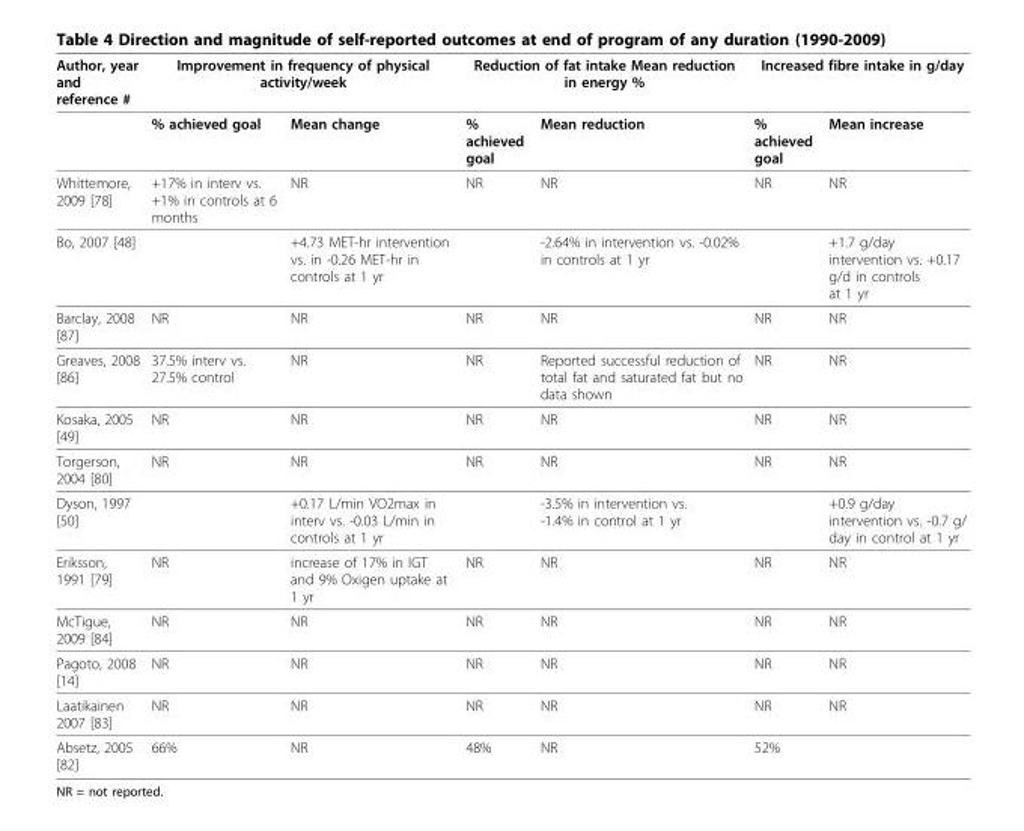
<table><thead><tr><td rowspan="2">Author, year and reference #</td><td colspan="2">Improvement in frequency of physical activity/week</td><td colspan="2">Reduction of fat intake Mean reduction in energy %</td><td colspan="2">Increased fibre intake in g/day</td></tr><tr><td>% achieved goal</td><td>Mean change</td><td>% achieved goal</td><td>Mean reduction</td><td>% achieved goal</td><td>Mean increase</td></tr></thead><tbody><tr><td>Whittemore, 2009 [78]</td><td>+17% in interv vs. +1% in controls at 6 months</td><td>NR</td><td>NR</td><td>NR</td><td>NR</td><td>NR</td></tr><tr><td>Bo, 2007 [48]</td><td></td><td>+4.73 MET-hr intervention vs. in -0.26 MET-hr in controls at 1 yr</td><td></td><td>-2.64% in intervention vs. -0.02% in controls at 1 yr</td><td></td><td>+1.7 g/day intervention vs. +0.17 g/d in controls at 1 yr</td></tr><tr><td>Barclay, 2008 [87]</td><td>NR</td><td>NR</td><td>NR</td><td>NR</td><td>NR</td><td>NR</td></tr><tr><td>Greaves, 2008 [86]</td><td>37.5% interv vs. 27.5% control</td><td>NR</td><td>NR</td><td>Reported successful reduction of total fat and saturated fat but no data shown</td><td>NR</td><td>NR</td></tr><tr><td>Kosaka, 2005 [49]</td><td>NR</td><td>NR</td><td>NR</td><td>NR</td><td>NR</td><td>NR</td></tr><tr><td>Torgerson, 2004 [80]</td><td>NR</td><td>NR</td><td>NR</td><td>NR</td><td>NR</td><td>NR</td></tr><tr><td>Dyson, 1997 [50]</td><td></td><td>+0.17 L/min VO2max in interv vs. -0.03 L/min in controls at 1 yr</td><td></td><td>-3.5% in intervention vs. -1.4% in control at 1 yr</td><td></td><td>+0.9 g/day intervention vs. -0.7 g/ day in control at 1 yr</td></tr><tr><td>Eriksson, 1991 [79]</td><td>NR</td><td>increase of 17% in IGT and 9% Oxigen uptake at 1 yr</td><td>NR</td><td>NR</td><td>NR</td><td>NR</td></tr><tr><td>McTigue, 2009 [84]</td><td>NR</td><td>NR</td><td>NR</td><td>NR</td><td>NR</td><td>NR</td></tr><tr><td>Pagoto, 2008 [14]</td><td>NR</td><td>NR</td><td>NR</td><td>NR</td><td>NR</td><td>NR</td></tr><tr><td>Laatikainen 2007 [83]</td><td>NR</td><td>NR</td><td>NR</td><td>NR</td><td>NR</td><td>NR</td></tr><tr><td>Absetz, 2005 [82]</td><td>66%</td><td>NR</td><td>48%</td><td>NR</td><td>52%</td><td></td></tr></tbody></table>